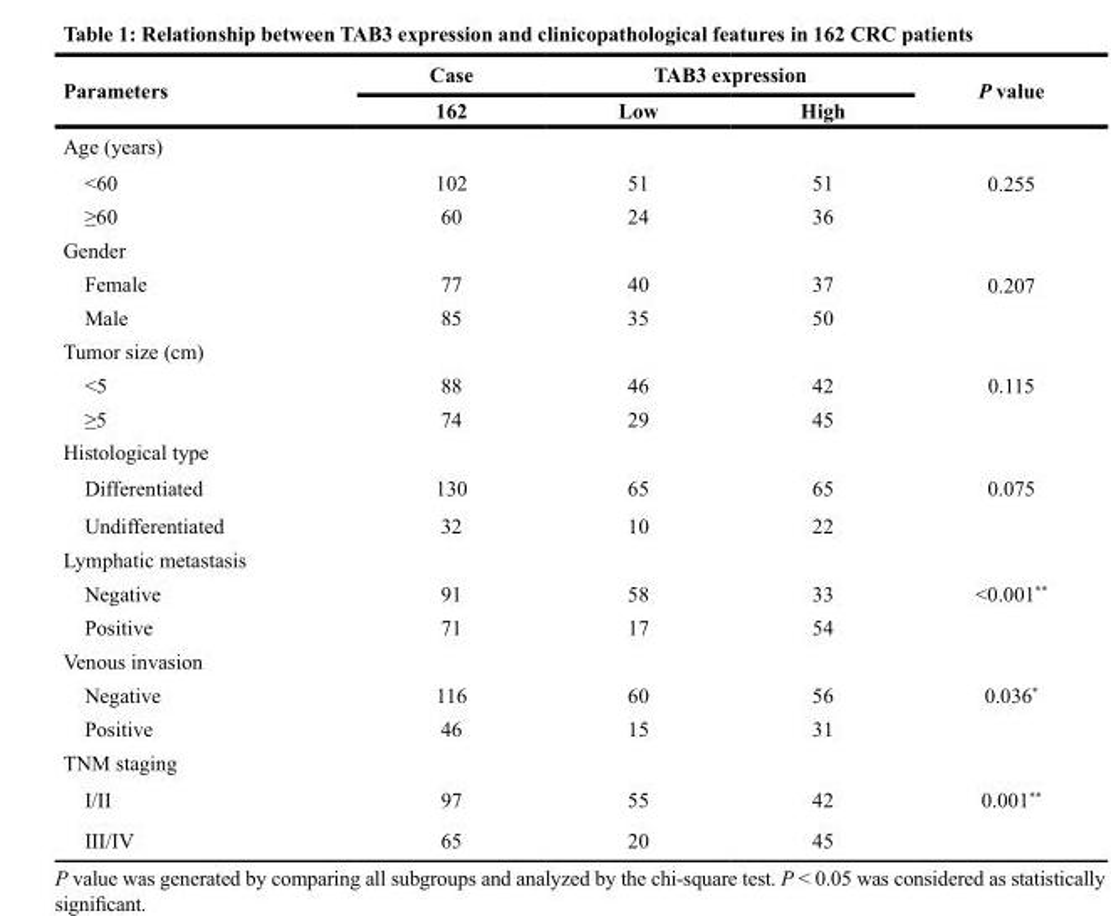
<table><thead><tr><td rowspan="2">Parameters</td><td rowspan="2">Case 162</td><td colspan="2">TAB3 expression</td><td rowspan="2">P value</td></tr><tr><td>Low</td><td>High</td></tr></thead><tbody><tr><td colspan="5">Age (years)</td></tr><tr><td>&lt;60</td><td>102</td><td>51</td><td>51</td><td>0.255</td></tr><tr><td>≥60</td><td>60</td><td>24</td><td>36</td><td></td></tr><tr><td colspan="5">Gender</td></tr><tr><td>Female</td><td>77</td><td>40</td><td>37</td><td>0.207</td></tr><tr><td>Male</td><td>85</td><td>35</td><td>50</td><td></td></tr><tr><td colspan="5">Tumor size (cm)</td></tr><tr><td>&lt;5</td><td>88</td><td>46</td><td>42</td><td>0.115</td></tr><tr><td>≥5</td><td>74</td><td>29</td><td>45</td><td></td></tr><tr><td colspan="5">Histological type</td></tr><tr><td>Differentiated</td><td>130</td><td>65</td><td>65</td><td>0.075</td></tr><tr><td>Undifferentiated</td><td>32</td><td>10</td><td>22</td><td></td></tr><tr><td colspan="5">Lymphatic metastasis</td></tr><tr><td>Negative</td><td>91</td><td>58</td><td>33</td><td>&lt;0.001**</td></tr><tr><td>Positive</td><td>71</td><td>17</td><td>54</td><td></td></tr><tr><td colspan="5">Venous invasion</td></tr><tr><td>Negative</td><td>116</td><td>60</td><td>56</td><td>0.036*</td></tr><tr><td>Positive</td><td>46</td><td>15</td><td>31</td><td></td></tr><tr><td colspan="5">TNM staging</td></tr><tr><td>I/II</td><td>97</td><td>55</td><td>42</td><td>0.001**</td></tr><tr><td>III/IV</td><td>65</td><td>20</td><td>45</td><td></td></tr></tbody></table>